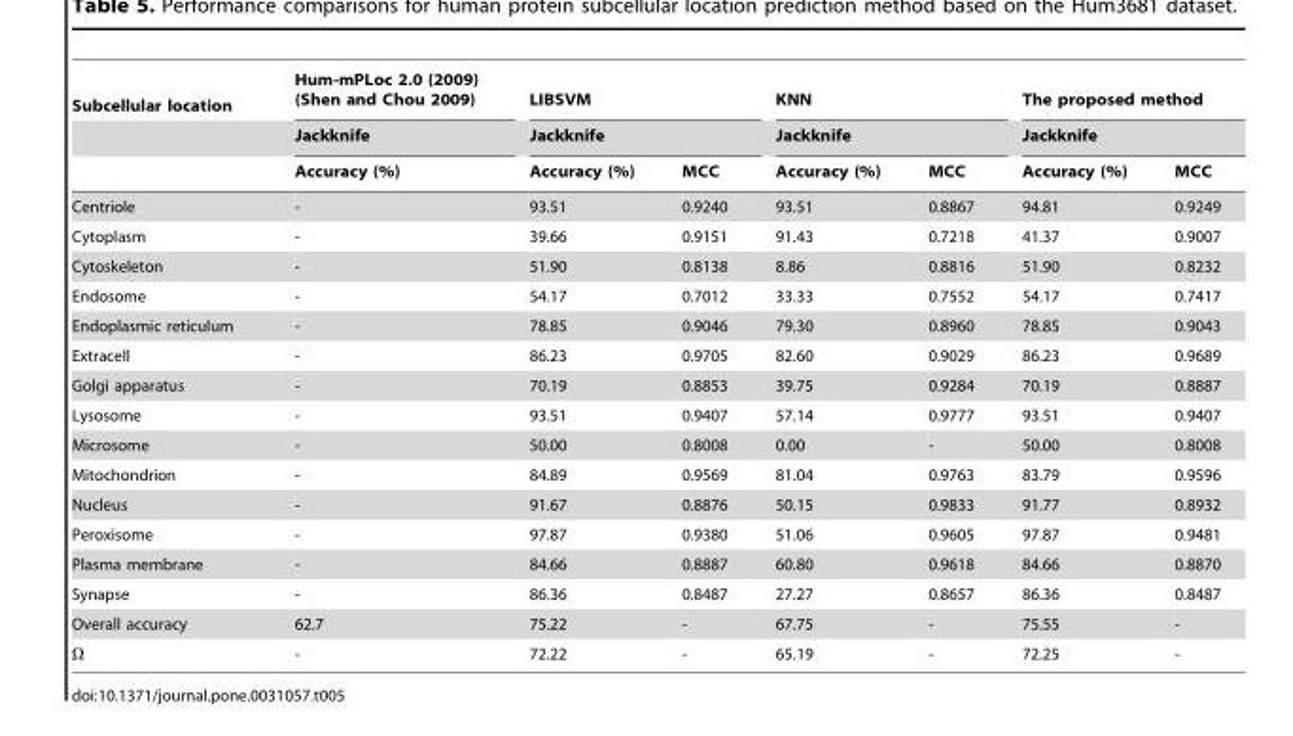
<table><thead><tr><td rowspan="3">Subcellular location</td><td rowspan="3">Hum-mPLoc 2.0 (2009) (Shen and Chou 2009) Jackknife Accuracy (%)</td><td rowspan="2" colspan="2">LIBSVM Jackknife</td><td rowspan="2" colspan="2">KNN Jackknife</td><td rowspan="2" colspan="2">The proposed method Jackknife</td></tr><tr></tr><tr><td>Accuracy (%)</td><td>MCC</td><td>Accuracy (%)</td><td>MCC</td><td>Accuracy (%)</td><td>MCC</td></tr></thead><tbody><tr><td>Centriole</td><td>-</td><td>93.51</td><td>0.9240</td><td>93.51</td><td>0.8867</td><td>94.81</td><td>0.9249</td></tr><tr><td>Cytoplasm</td><td>-</td><td>39.66</td><td>0.9151</td><td>91.43</td><td>0.7218</td><td>41.37</td><td>0.9007</td></tr><tr><td>Cytoskeleton</td><td>-</td><td>51.90</td><td>0.8138</td><td>8.86</td><td>0.8816</td><td>51.90</td><td>0.8232</td></tr><tr><td>Endosome</td><td>-</td><td>54.17</td><td>0.7012</td><td>33.33</td><td>0.7552</td><td>54.17</td><td>0.7417</td></tr><tr><td>Endoplasmic reticulum</td><td>-</td><td>78.85</td><td>0.9046</td><td>79.30</td><td>0.8960</td><td>78.85</td><td>0.9043</td></tr><tr><td>Extracell</td><td>-</td><td>86.23</td><td>0.9705</td><td>82.60</td><td>0.9029</td><td>86.23</td><td>0.9689</td></tr><tr><td>Golgi apparatus</td><td>-</td><td>70.19</td><td>0.8853</td><td>39.75</td><td>0.9284</td><td>70.19</td><td>0.8887</td></tr><tr><td>Lysosome</td><td>-</td><td>93.51</td><td>0.9407</td><td>57.14</td><td>0.9777</td><td>93.51</td><td>0.9407</td></tr><tr><td>Microsome</td><td>-</td><td>50.00</td><td>0.8008</td><td>0.00</td><td>-</td><td>50.00</td><td>0.8008</td></tr><tr><td>Mitochondrion</td><td>-</td><td>84.89</td><td>0.9569</td><td>81.04</td><td>0.9763</td><td>83.79</td><td>0.9596</td></tr><tr><td>Nucleus</td><td>-</td><td>91.67</td><td>0.8876</td><td>50.15</td><td>0.9833</td><td>91.77</td><td>0.8932</td></tr><tr><td>Peroxisome</td><td>-</td><td>97.87</td><td>0.9380</td><td>51.06</td><td>0.9605</td><td>97.87</td><td>0.9481</td></tr><tr><td>Plasma membrane</td><td>-</td><td>84.66</td><td>0.8887</td><td>60.80</td><td>0.9618</td><td>84.66</td><td>0.8870</td></tr><tr><td>Synapse</td><td>-</td><td>86.36</td><td>0.8487</td><td>27.27</td><td>0.8657</td><td>86.36</td><td>0.8487</td></tr><tr><td rowspan="2">Overall accuracy V</td><td>62.7</td><td>75.22</td><td>-</td><td>67.75</td><td>-</td><td>75.55</td><td>-</td></tr><tr><td>-</td><td>72.22</td><td>-</td><td>65.19</td><td>-</td><td>72.25</td><td>-</td></tr></tbody></table>